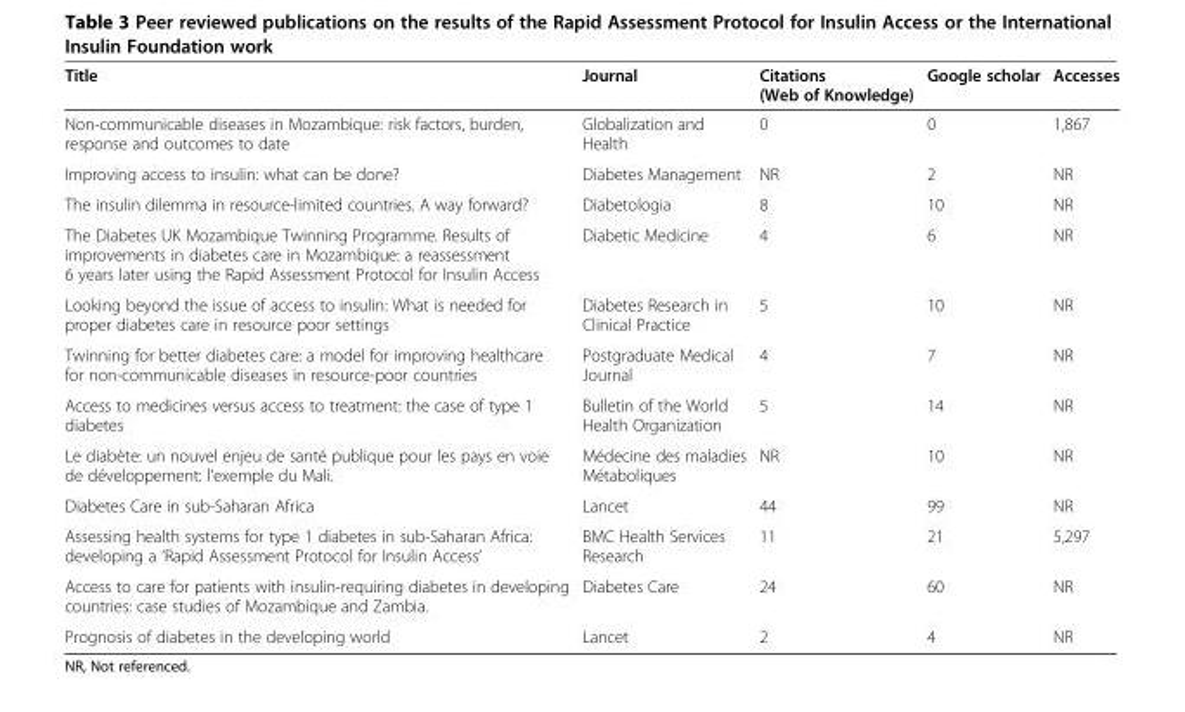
<table><thead><tr><td>Title</td><td>Journal</td><td>Citations (Web of Knowledge)</td><td>Google scholar</td><td>Accesses</td></tr></thead><tbody><tr><td>Non-communicable diseases in Mozambique: risk factors, burden, response and outcomes to date</td><td>Globalization and Health</td><td>0</td><td>0</td><td>1,867</td></tr><tr><td>Improving access to insulin: what can be done?</td><td>Diabetes Management</td><td>NR</td><td>2</td><td>NR</td></tr><tr><td>The insulin dilemma in resource-limited countries. A way forward?</td><td>Diabetologia</td><td>8</td><td>10</td><td>NR</td></tr><tr><td>The Diabetes UK Mozambique Twinning Programme. Results of improvements in diabetes care in Mozambique: a reassessment 6 years later using the Rapid Assessment Protocol for Insulin Access</td><td>Diabetic Medicine</td><td>4</td><td>6</td><td>NR</td></tr><tr><td>Looking beyond the issue of access to insulin: What is needed for proper diabetes care in resource poor settings</td><td>Diabetes Research in Clinical Practice</td><td>5</td><td>10</td><td>NR</td></tr><tr><td>Twinning for better diabetes care: a model for improving healthcare for non-communicable diseases in resource-poor countries</td><td>Postgraduate Medical Journal</td><td>4</td><td>7</td><td>NR</td></tr><tr><td>Access to medicines versus access to treatment: the case of type 1 diabetes</td><td>Bulletin of the World Health Organization</td><td>5</td><td>14</td><td>NR</td></tr><tr><td>Le diabète: un nouvel enjeu de santé publique pour les pays en voie de développement: l’exemple du Mali.</td><td>Médecine des maladies Métaboliques</td><td>NR</td><td>10</td><td>NR</td></tr><tr><td>Diabetes Care in sub-Saharan Africa</td><td>Lancet</td><td>44</td><td>99</td><td>NR</td></tr><tr><td>Assessing health systems for type 1 diabetes in sub-Saharan Africa: developing a ‘Rapid Assessment Protocol for Insulin Access’</td><td>BMC Health Services Research</td><td>11</td><td>21</td><td>5,297</td></tr><tr><td>Access to care for patients with insulin-requiring diabetes in developing countries: case studies of Mozambique and Zambia.</td><td>Diabetes Care</td><td>24</td><td>60</td><td>NR</td></tr><tr><td>Prognosis of diabetes in the developing world</td><td>Lancet</td><td>2</td><td>4</td><td>NR</td></tr></tbody></table>